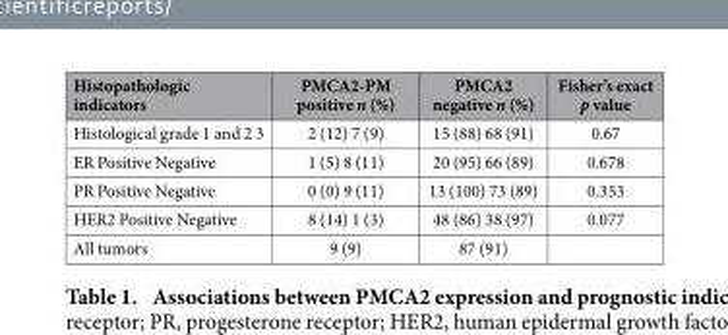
<table><thead><tr><td>Histopathologic indicators</td><td>PMCA2-PM positive n (%)</td><td>PMCA2 negative n (%)</td><td>Fisher’s exact p value</td></tr></thead><tbody><tr><td>Histological grade 1 and 2 3</td><td>2 (12) 7 (9)</td><td>15 (88) 68 (91)</td><td>0.67</td></tr><tr><td>ER Positive Negative</td><td>1 (5) 8 (11)</td><td>20 (95) 66 (89)</td><td>0.678</td></tr><tr><td>PR Positive Negative</td><td>0 (0) 9 (11)</td><td>13 (100) 73 (89)</td><td>0.353</td></tr><tr><td>HER2 Positive Negative</td><td>8 (14) 1 (3)</td><td>48 (86) 38 (97)</td><td>0.077</td></tr><tr><td>All tumors</td><td>9 (9)</td><td>87 (91)</td><td></td></tr></tbody></table>